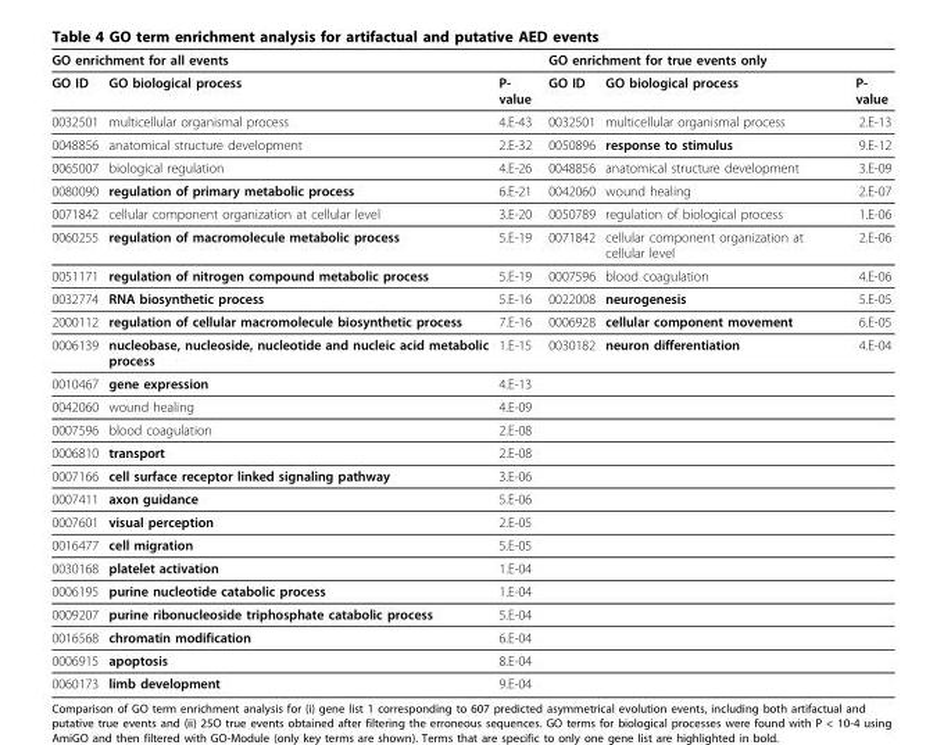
<table><thead><tr><td colspan="3">GO enrichment for all events</td><td colspan="3">GO enrichment for true events only</td></tr><tr><td>GO ID</td><td>GO biological process</td><td>P- value</td><td>GO ID</td><td>GO biological process</td><td>P- value</td></tr></thead><tbody><tr><td>0032501</td><td>multicellular organismal process</td><td>4.E-43</td><td>0032501</td><td>multicellular organismal process</td><td>2.E-13</td></tr><tr><td>0048856</td><td>anatomical structure development</td><td>2.E-32</td><td>0050896</td><td>response to stimulus</td><td>9.E-12</td></tr><tr><td>0065007</td><td>biological regulation</td><td>4.E-26</td><td>0048856</td><td>anatomical structure development</td><td>3.E-09</td></tr><tr><td>0080090</td><td>regulation of primary metabolic process</td><td>6.E-21</td><td>0042060</td><td>wound healing</td><td>2.E-07</td></tr><tr><td>0071842</td><td>cellular component organization at cellular level</td><td>3.E-20</td><td>0050789</td><td>regulation of biological process</td><td>1.E-06</td></tr><tr><td>0060255</td><td>regulation of macromolecule metabolic process</td><td>5.E-19</td><td>0071842</td><td>cellular component organization at cellular level</td><td>2.E-06</td></tr><tr><td>0051171</td><td>regulation of nitrogen compound metabolic process</td><td>5.E-19</td><td>0007596</td><td>blood coagulation</td><td>4.E-06</td></tr><tr><td>0032774</td><td>RNA biosynthetic process</td><td>5.E-16</td><td>0022008</td><td>neurogenesis</td><td>5.E-05</td></tr><tr><td>2000112</td><td>regulation of cellular macromolecule biosynthetic process</td><td>7.E-16</td><td>0006928</td><td>cellular component movement</td><td>6.E-05</td></tr><tr><td>0006139</td><td>nucleobase, nucleoside, nucleotide and nucleic acid metabolic process</td><td>1.E-15</td><td>0030182</td><td>neuron differentiation</td><td>4.E-04</td></tr><tr><td>0010467</td><td>gene expression</td><td>4.E-13</td><td></td><td></td><td></td></tr><tr><td>0042060</td><td>wound healing</td><td>4.E-09</td><td></td><td></td><td></td></tr><tr><td>0007596</td><td>blood coagulation</td><td>2.E-08</td><td></td><td></td><td></td></tr><tr><td>0006810</td><td>transport</td><td>2.E-08</td><td></td><td></td><td></td></tr><tr><td>0007166</td><td>cell surface receptor linked signaling pathway</td><td>3.E-06</td><td></td><td></td><td></td></tr><tr><td>0007411</td><td>axon guidance</td><td>5.E-06</td><td></td><td></td><td></td></tr><tr><td>0007601</td><td>visual perception</td><td>2.E-05</td><td></td><td></td><td></td></tr><tr><td>0016477</td><td>cell migration</td><td>5.E-05</td><td></td><td></td><td></td></tr><tr><td>0030168</td><td>platelet activation</td><td>1.E-04</td><td></td><td></td><td></td></tr><tr><td>0006195</td><td>purine nucleotide catabolic process</td><td>1.E-04</td><td></td><td></td><td></td></tr><tr><td>0009207</td><td>purine ribonucleoside triphosphate catabolic process</td><td>5.E-04</td><td></td><td></td><td></td></tr><tr><td>0016568</td><td>chromatin modification</td><td>6.E-04</td><td></td><td></td><td></td></tr><tr><td>0006915</td><td>apoptosis</td><td>8.E-04</td><td></td><td></td><td></td></tr><tr><td>0060173</td><td>limb development</td><td>9.E-04</td><td></td><td></td><td></td></tr></tbody></table>